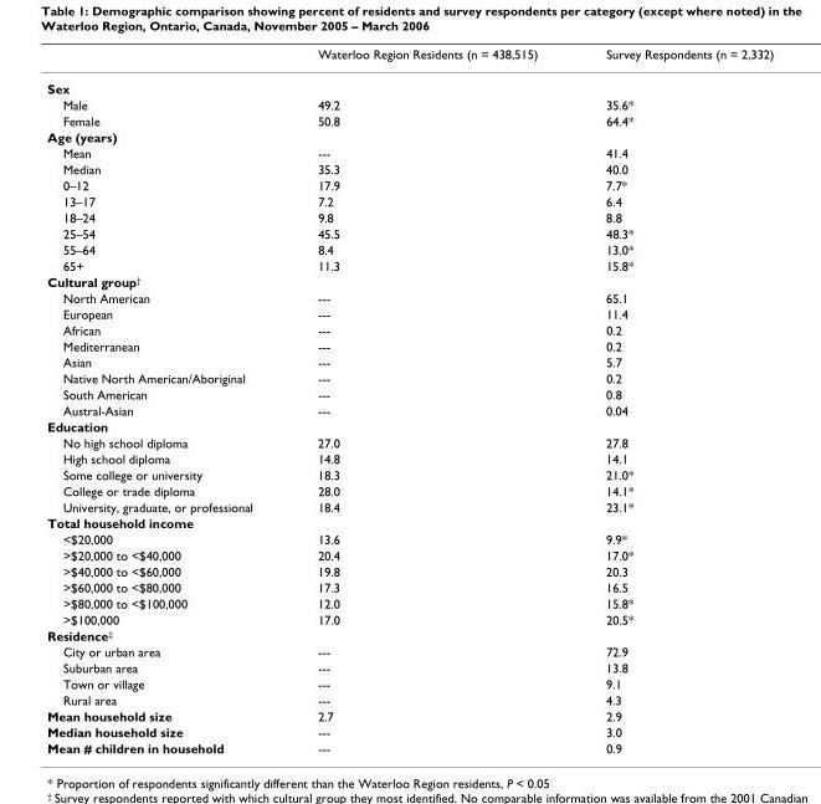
<table><thead><tr><td></td><td>Waterloo Region Residents (n = 438,515)</td><td>Survey Respondents (n = 2,332)</td></tr></thead><tbody><tr><td colspan="3">Sex</td></tr><tr><td>Male</td><td>49.2</td><td>35.6*</td></tr><tr><td>Female</td><td>50.8</td><td>64.4*</td></tr><tr><td colspan="3">Age (years)</td></tr><tr><td>Mean</td><td>---</td><td>41.4</td></tr><tr><td>Median</td><td>35.3</td><td>40.0</td></tr><tr><td>0–12</td><td>17.9</td><td>7.7*</td></tr><tr><td>13–17</td><td>7.2</td><td>6.4</td></tr><tr><td>18–24</td><td>9.8</td><td>8.8</td></tr><tr><td>25–54</td><td>45.5</td><td>48.3*</td></tr><tr><td>55–64</td><td>8.4</td><td>13.0*</td></tr><tr><td>65+</td><td>11.3</td><td>15.8*</td></tr><tr><td colspan="3">Cultural group<sup>†</sup></td></tr><tr><td>North American</td><td>---</td><td>65.1</td></tr><tr><td>European</td><td>---</td><td>11.4</td></tr><tr><td>African</td><td>---</td><td>0.2</td></tr><tr><td>Mediterranean</td><td>---</td><td>0.2</td></tr><tr><td>Asian</td><td>---</td><td>5.7</td></tr><tr><td>Native North American/Aboriginal</td><td>---</td><td>0.2</td></tr><tr><td>South American</td><td>---</td><td>0.8</td></tr><tr><td>Austral-Asian</td><td>---</td><td>0.04</td></tr><tr><td colspan="3">Education</td></tr><tr><td>No high school diploma</td><td>27.0</td><td>27.8</td></tr><tr><td>High school diploma</td><td>14.8</td><td>14.1</td></tr><tr><td>Some college or university</td><td>18.3</td><td>21.0*</td></tr><tr><td>College or trade diploma</td><td>28.0</td><td>14.1*</td></tr><tr><td>University, graduate, or professional</td><td>18.4</td><td>23.1*</td></tr><tr><td colspan="3">Total household income</td></tr><tr><td>&lt;$20,000</td><td>13.6</td><td>9.9*</td></tr><tr><td>&gt;$20,000 to &lt;$40,000</td><td>20.4</td><td>17.0*</td></tr><tr><td>&gt;$40,000 to &lt;$60,000</td><td>19.8</td><td>20.3</td></tr><tr><td>&gt;$60,000 to &lt;$80,000</td><td>17.3</td><td>16.5</td></tr><tr><td>&gt;$80,000 to &lt;$100,000</td><td>12.0</td><td>15.8*</td></tr><tr><td>&gt;$100,000</td><td>17.0</td><td>20.5*</td></tr><tr><td colspan="3">Residence<sup>‡</sup></td></tr><tr><td>City or urban area</td><td>---</td><td>72.9</td></tr><tr><td>Suburban area</td><td>---</td><td>13.8</td></tr><tr><td>Town or village</td><td>---</td><td>9.1</td></tr><tr><td>Rural area</td><td>---</td><td>4.3</td></tr><tr><td>Mean household size</td><td>2.7</td><td>2.9</td></tr><tr><td>Median household size</td><td>---</td><td>3.0</td></tr><tr><td>Mean # children in household</td><td>---</td><td>0.9</td></tr></tbody></table>